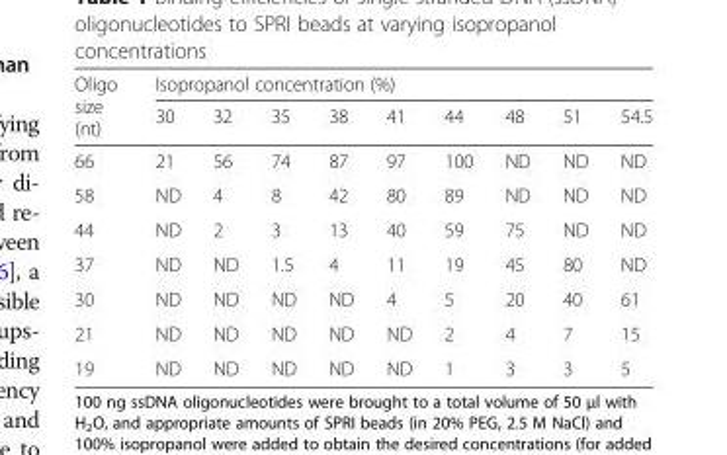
<table><thead><tr><td rowspan="2">Oligo size (nt)</td><td colspan="9">Isopropanol concentration (%)</td></tr><tr><td>30</td><td>32</td><td>35</td><td>38</td><td>41</td><td>44</td><td>48</td><td>51</td><td>54.5</td></tr></thead><tbody><tr><td>66</td><td>21</td><td>56</td><td>74</td><td>87</td><td>97</td><td>100</td><td>ND</td><td>ND</td><td>ND</td></tr><tr><td>58</td><td>ND</td><td>4</td><td>8</td><td>42</td><td>80</td><td>89</td><td>ND</td><td>ND</td><td>ND</td></tr><tr><td>44</td><td>ND</td><td>2</td><td>3</td><td>13</td><td>40</td><td>59</td><td>75</td><td>ND</td><td>ND</td></tr><tr><td>37</td><td>ND</td><td>ND</td><td>1.5</td><td>4</td><td>11</td><td>19</td><td>45</td><td>80</td><td>ND</td></tr><tr><td>30</td><td>ND</td><td>ND</td><td>ND</td><td>ND</td><td>4</td><td>5</td><td>20</td><td>40</td><td>61</td></tr><tr><td>21</td><td>ND</td><td>ND</td><td>ND</td><td>ND</td><td>ND</td><td>2</td><td>4</td><td>7</td><td>15</td></tr><tr><td>19</td><td>ND</td><td>ND</td><td>ND</td><td>ND</td><td>ND</td><td>1</td><td>3</td><td>3</td><td>5</td></tr></tbody></table>